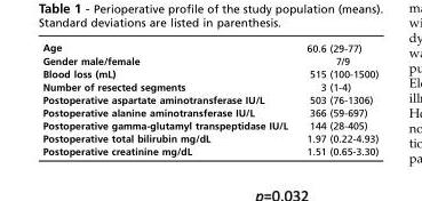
<table><tbody><tr><td>Age</td><td>60.6 (29-77)</td></tr><tr><td>Gender male/female</td><td>7/9</td></tr><tr><td>Blood loss (mL)</td><td>515 (100-1500)</td></tr><tr><td>Number of resected segments</td><td>3 (1-4)</td></tr><tr><td>Postoperative aspartate aminotransferase IU/L</td><td>503 (76-1306)</td></tr><tr><td>Postoperative alanine aminotransferase IU/L</td><td>366 (59-697)</td></tr><tr><td>Postoperative gamma-glutamyl transpeptidase IU/L</td><td>144 (28-405)</td></tr><tr><td>Postoperative total bilirubin mg/dL</td><td>1.97 (0.22-4.93)</td></tr><tr><td>Postoperative creatinine mg/dL</td><td>1.51 (0.65-3.30)</td></tr></tbody></table>